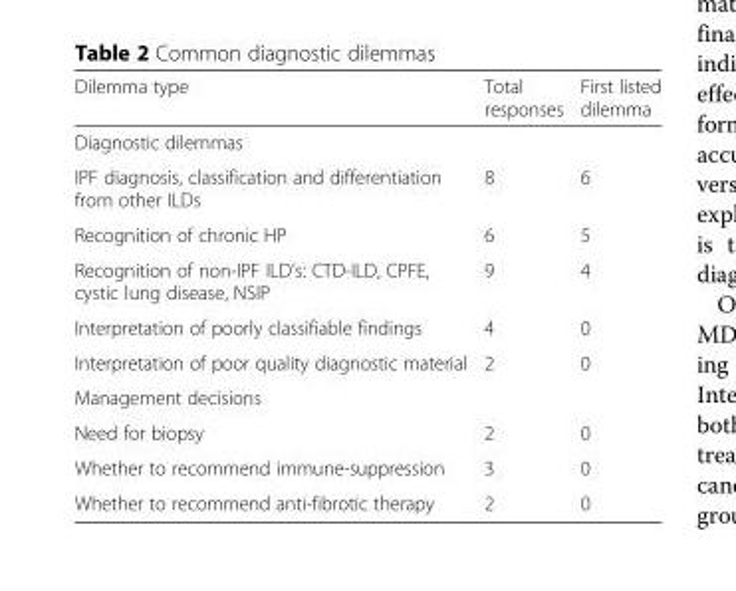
<table><thead><tr><td>Dilemma type</td><td>Total responses</td><td>First listed dilemma</td></tr></thead><tbody><tr><td colspan="3">Diagnostic dilemmas</td></tr><tr><td>IPF diagnosis, classification and differentiation from other ILDs</td><td>8</td><td>6</td></tr><tr><td>Recognition of chronic HP</td><td>6</td><td>5</td></tr><tr><td>Recognition of non-IPF ILD’s: CTD-ILD, CPFE, cystic lung disease, NSIP</td><td>9</td><td>4</td></tr><tr><td>Interpretation of poorly classifiable findings</td><td>4</td><td>0</td></tr><tr><td>Interpretation of poor quality diagnostic material</td><td>2</td><td>0</td></tr><tr><td colspan="3">Management decisions</td></tr><tr><td>Need for biopsy</td><td>2</td><td>0</td></tr><tr><td>Whether to recommend immune-suppression</td><td>3</td><td>0</td></tr><tr><td>Whether to recommend anti-fibrotic therapy</td><td>2</td><td>0</td></tr></tbody></table>